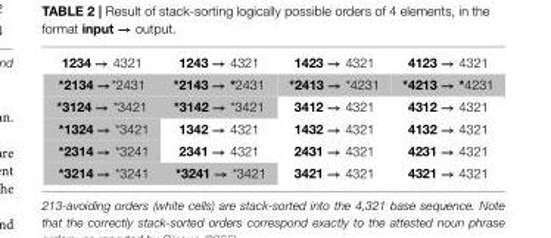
<table><tbody><tr><td>1234 → 4321</td><td>1243 → 4321</td><td>1423 → 4321</td><td>4123 → 4321</td></tr><tr><td>*2134 →*2431</td><td>*2143 → *2431</td><td>*2413 → *4231</td><td>*4213 → *4231</td></tr><tr><td>*3124 → *3421</td><td>*3142 → *3421</td><td>3412 → 4321</td><td>4312 → 4321</td></tr><tr><td>*1324 → *3421</td><td>1342 → 4321</td><td>1432 → 4321</td><td>4132 → 4321</td></tr><tr><td>*2314 → *3241</td><td>2341 → 4321</td><td>2431 → 4321</td><td>4231 → 4321</td></tr><tr><td>*3214 → *3241</td><td>*3241 → *3421</td><td>3421 → 4321</td><td>4321 → 4321</td></tr></tbody></table>